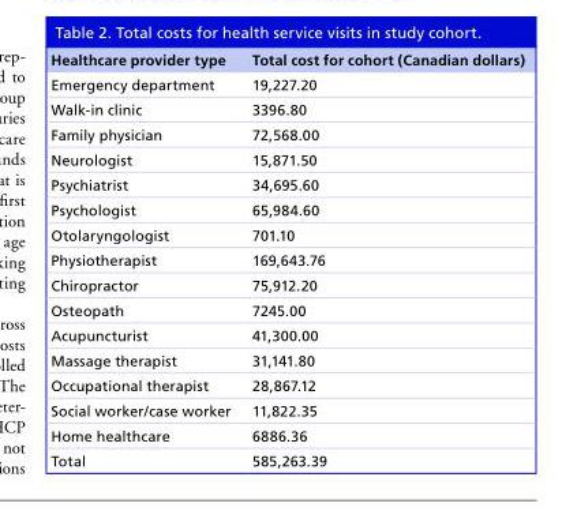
<table><thead><tr><td>Healthcare provider type</td><td>Total cost for cohort (Canadian dollars)</td></tr></thead><tbody><tr><td>Emergency department</td><td>19,227.20</td></tr><tr><td>Walk-in clinic</td><td>3396.80</td></tr><tr><td>Family physician</td><td>72,568.00</td></tr><tr><td>Neurologist</td><td>15,871.50</td></tr><tr><td>Psychiatrist</td><td>34,695.60</td></tr><tr><td>Psychologist</td><td>65,984.60</td></tr><tr><td>Otolaryngologist</td><td>701.10</td></tr><tr><td>Physiotherapist</td><td>169,643.76</td></tr><tr><td>Chiropractor</td><td>75,912.20</td></tr><tr><td>Osteopath</td><td>7245.00</td></tr><tr><td>Acupuncturist</td><td>41,300.00</td></tr><tr><td>Massage therapist</td><td>31,141.80</td></tr><tr><td>Occupational therapist</td><td>28,867.12</td></tr><tr><td>Social worker/case worker</td><td>11,822.35</td></tr><tr><td>Home healthcare</td><td>6886.36</td></tr><tr><td>Total</td><td>585,263.39</td></tr></tbody></table>